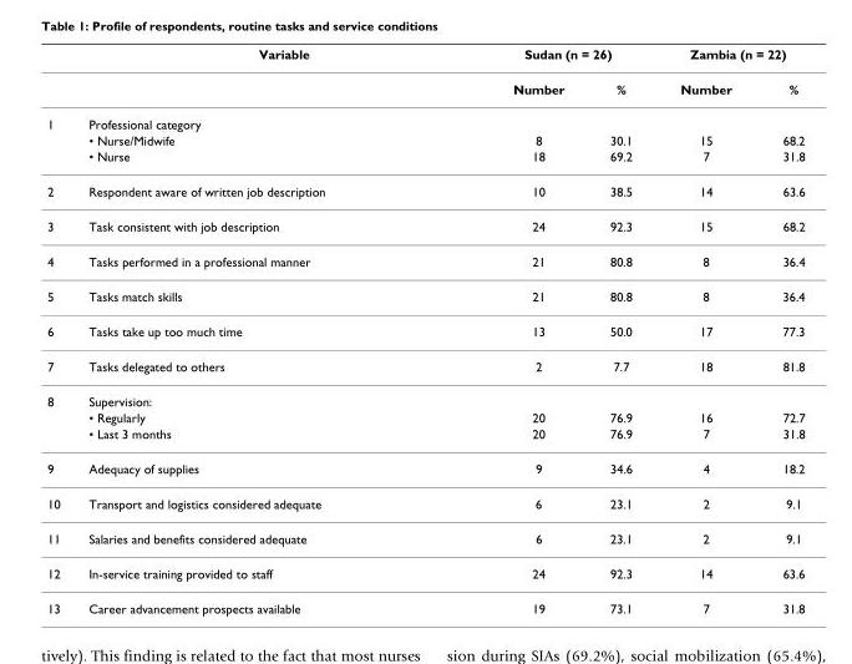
<table><thead><tr><td rowspan="2"></td><td rowspan="2">Variable</td><td colspan="2">Sudan (n = 26)</td><td colspan="2">Zambia (n = 22)</td></tr><tr><td>Number</td><td>%</td><td>Number</td><td>%</td></tr></thead><tbody><tr><td rowspan="3">1</td><td>Professional category</td><td></td><td></td><td></td><td></td></tr><tr><td>• Nurse/Midwife</td><td>8</td><td>30.1</td><td>15</td><td>68.2</td></tr><tr><td>• Nurse</td><td>18</td><td>69.2</td><td>7</td><td>31.8</td></tr><tr><td>2</td><td>Respondent aware of written job description</td><td>10</td><td>38.5</td><td>14</td><td>63.6</td></tr><tr><td>3</td><td>Task consistent with job description</td><td>24</td><td>92.3</td><td>15</td><td>68.2</td></tr><tr><td>4</td><td>Tasks performed in a professional manner</td><td>21</td><td>80.8</td><td>8</td><td>36.4</td></tr><tr><td>5</td><td>Tasks match skills</td><td>21</td><td>80.8</td><td>8</td><td>36.4</td></tr><tr><td>6</td><td>Tasks take up too much time</td><td>13</td><td>50.0</td><td>17</td><td>77.3</td></tr><tr><td>7</td><td>Tasks delegated to others</td><td>2</td><td>7.7</td><td>18</td><td>81.8</td></tr><tr><td rowspan="3">8</td><td>Supervision:</td><td></td><td></td><td></td><td></td></tr><tr><td>• Regularly</td><td>20</td><td>76.9</td><td>16</td><td>72.7</td></tr><tr><td>• Last 3 months</td><td>20</td><td>76.9</td><td>7</td><td>31.8</td></tr><tr><td>9</td><td>Adequacy of supplies</td><td>9</td><td>34.6</td><td>4</td><td>18.2</td></tr><tr><td>10</td><td>Transport and logistics considered adequate</td><td>6</td><td>23.1</td><td>2</td><td>9.1</td></tr><tr><td>11</td><td>Salaries and benefits considered adequate</td><td>6</td><td>23.1</td><td>2</td><td>9.1</td></tr><tr><td>12</td><td>In-service training provided to staff</td><td>24</td><td>92.3</td><td>14</td><td>63.6</td></tr><tr><td>13</td><td>Career advancement prospects available</td><td>19</td><td>73.1</td><td>7</td><td>31.8</td></tr></tbody></table>